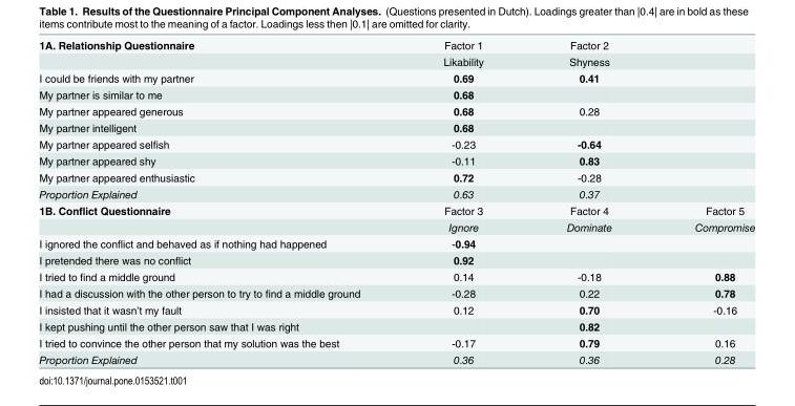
<table><tbody><tr><td rowspan="2">1A. Relationship Questionnaire</td><td>Factor 1</td><td>Factor 2</td><td></td></tr><tr><td>Likability</td><td>Shyness</td><td></td></tr><tr><td>I could be friends with my partner</td><td>0.69</td><td>0.41</td><td></td></tr><tr><td>My partner is similar to me</td><td>0.68</td><td></td><td></td></tr><tr><td>My partner appeared generous</td><td>0.68</td><td>0.28</td><td></td></tr><tr><td>My partner intelligent</td><td>0.68</td><td></td><td></td></tr><tr><td>My partner appeared selfish</td><td>-0.23</td><td>-0.64</td><td></td></tr><tr><td>My partner appeared shy</td><td>-0.11</td><td>0.83</td><td></td></tr><tr><td>My partner appeared enthusiastic</td><td>0.72</td><td>-0.28</td><td></td></tr><tr><td>Proportion Explained</td><td>0.63</td><td>0.37</td><td></td></tr><tr><td rowspan="2">1B. Conflict Questionnaire</td><td>Factor 3</td><td>Factor 4</td><td>Factor 5</td></tr><tr><td>Ignore</td><td>Dominate</td><td>Compromise</td></tr><tr><td>I ignored the conflict and behaved as if nothing had happened</td><td>-0.94</td><td></td><td></td></tr><tr><td>I pretended there was no conflict</td><td>0.92</td><td></td><td></td></tr><tr><td>I tried to find a middle ground</td><td>0.14</td><td>-0.18</td><td>0.88</td></tr><tr><td>I had a discussion with the other person to try to find a middle ground</td><td>-0.28</td><td>0.22</td><td>0.78</td></tr><tr><td>I insisted that it wasn’t my fault</td><td>0.12</td><td>0.70</td><td>-0.16</td></tr><tr><td>I kept pushing until the other person saw that I was right</td><td></td><td>0.82</td><td></td></tr><tr><td>I tried to convince the other person that my solution was the best</td><td>-0.17</td><td>0.79</td><td>0.16</td></tr><tr><td>Proportion Explained</td><td>0.36</td><td>0.36</td><td>0.28</td></tr></tbody></table>